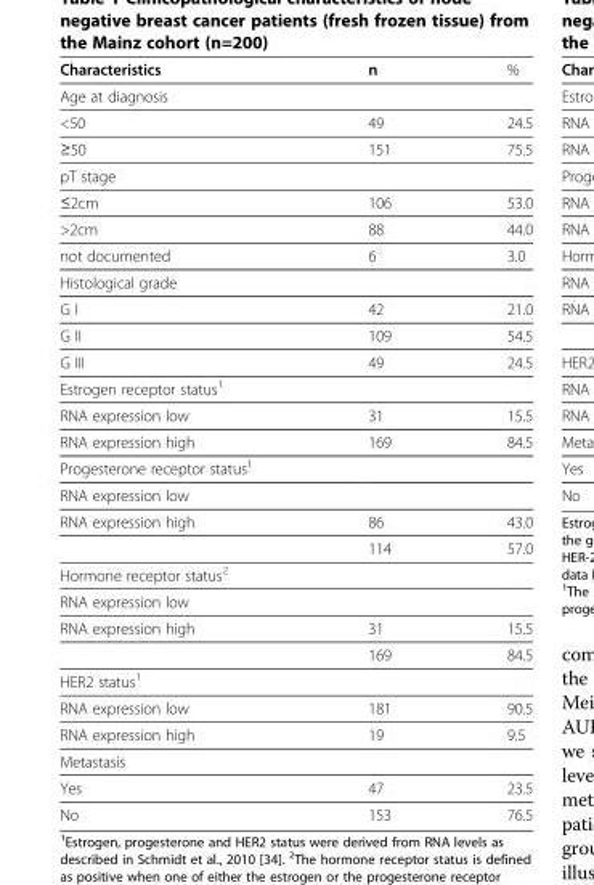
<table><thead><tr><td>Characteristics</td><td>n</td><td>%</td></tr></thead><tbody><tr><td colspan="3">Age at diagnosis</td></tr><tr><td>&lt;50</td><td>49</td><td>24.5</td></tr><tr><td>≥50</td><td>151</td><td>75.5</td></tr><tr><td colspan="3">pT stage</td></tr><tr><td>≤2cm</td><td>106</td><td>53.0</td></tr><tr><td>&gt;2cm</td><td>88</td><td>44.0</td></tr><tr><td>not documented</td><td>6</td><td>3.0</td></tr><tr><td colspan="3">Histological grade</td></tr><tr><td>G I</td><td>42</td><td>21.0</td></tr><tr><td>G II</td><td>109</td><td>54.5</td></tr><tr><td>G III</td><td>49</td><td>24.5</td></tr><tr><td colspan="3">Estrogen receptor status<sup>1</sup></td></tr><tr><td>RNA expression low</td><td>31</td><td>15.5</td></tr><tr><td>RNA expression high</td><td>169</td><td>84.5</td></tr><tr><td colspan="3">Progesterone receptor status<sup>1</sup></td></tr><tr><td colspan="3">RNA expression low</td></tr><tr><td rowspan="2">RNA expression high</td><td>86</td><td>43.0</td></tr><tr><td>114</td><td>57.0</td></tr><tr><td colspan="3">Hormone receptor status<sup>2</sup></td></tr><tr><td colspan="3">RNA expression low</td></tr><tr><td rowspan="2">RNA expression high</td><td>31</td><td>15.5</td></tr><tr><td>169</td><td>84.5</td></tr><tr><td colspan="3">HER2 status<sup>1</sup></td></tr><tr><td>RNA expression low</td><td>181</td><td>90.5</td></tr><tr><td>RNA expression high</td><td>19</td><td>9.5</td></tr><tr><td colspan="3">Metastasis</td></tr><tr><td>Yes</td><td>47</td><td>23.5</td></tr><tr><td>No</td><td>153</td><td>76.5</td></tr></tbody></table>